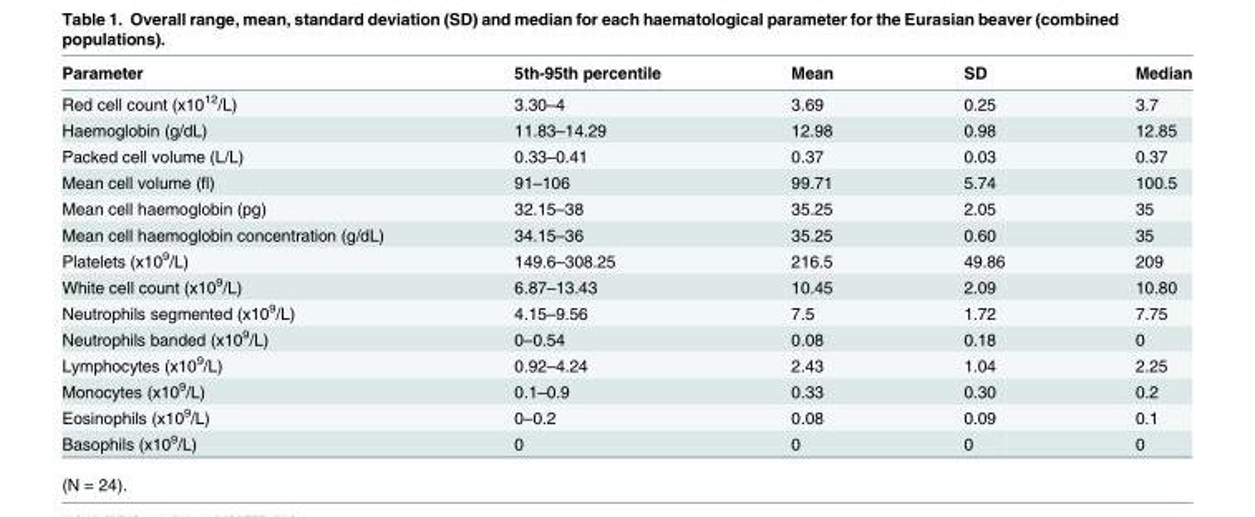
<table><thead><tr><td>Parameter</td><td>5th-95th percentile</td><td>Mean</td><td>SD</td><td>Median</td></tr></thead><tbody><tr><td>Red cell count (x10<sup>12</sup>/L)</td><td>3.30–4</td><td>3.69</td><td>0.25</td><td>3.7</td></tr><tr><td>Haemoglobin (g/dL)</td><td>11.83–14.29</td><td>12.98</td><td>0.98</td><td>12.85</td></tr><tr><td>Packed cell volume (L/L)</td><td>0.33–0.41</td><td>0.37</td><td>0.03</td><td>0.37</td></tr><tr><td>Mean cell volume (fl)</td><td>91–106</td><td>99.71</td><td>5.74</td><td>100.5</td></tr><tr><td>Mean cell haemoglobin (pg)</td><td>32.15–38</td><td>35.25</td><td>2.05</td><td>35</td></tr><tr><td>Mean cell haemoglobin concentration (g/dL)</td><td>34.15–36</td><td>35.25</td><td>0.60</td><td>35</td></tr><tr><td>Platelets (x10<sup>9</sup>/L)</td><td>149.6–308.25</td><td>216.5</td><td>49.86</td><td>209</td></tr><tr><td>White cell count (x10<sup>9</sup>/L)</td><td>6.87–13.43</td><td>10.45</td><td>2.09</td><td>10.80</td></tr><tr><td>Neutrophils segmented (x10<sup>9</sup>/L)</td><td>4.15–9.56</td><td>7.5</td><td>1.72</td><td>7.75</td></tr><tr><td>Neutrophils banded (x10<sup>9</sup>/L)</td><td>0–0.54</td><td>0.08</td><td>0.18</td><td>0</td></tr><tr><td>Lymphocytes (x10<sup>9</sup>/L)</td><td>0.92–4.24</td><td>2.43</td><td>1.04</td><td>2.25</td></tr><tr><td>Monocytes (x10<sup>9</sup>/L)</td><td>0.1–0.9</td><td>0.33</td><td>0.30</td><td>0.2</td></tr><tr><td>Eosinophils (x10<sup>9</sup>/L)</td><td>0–0.2</td><td>0.08</td><td>0.09</td><td>0.1</td></tr><tr><td>Basophils (x10<sup>9</sup>/L)</td><td>0</td><td>0</td><td>0</td><td>0</td></tr></tbody></table>